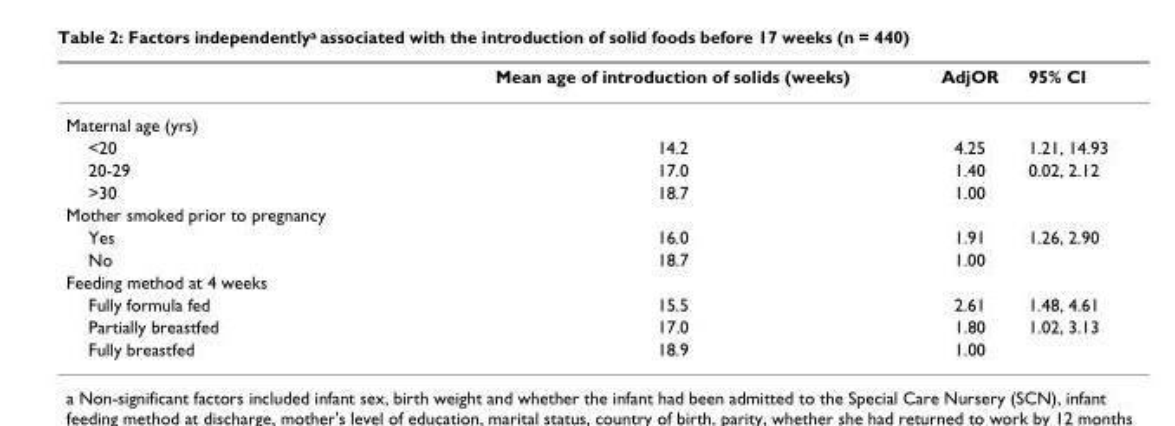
<table><thead><tr><td></td><td>Mean age of introduction of solids (weeks)</td><td>AdjOR</td><td>95% CI</td></tr></thead><tbody><tr><td colspan="4">Maternal age (yrs)</td></tr><tr><td>&lt;20</td><td>14.2</td><td>4.25</td><td>1.21, 14.93</td></tr><tr><td>20-29</td><td>17.0</td><td>1.40</td><td>0.02, 2.12</td></tr><tr><td>&gt;30</td><td>18.7</td><td>1.00</td><td></td></tr><tr><td colspan="4">Mother smoked prior to pregnancy</td></tr><tr><td>Yes</td><td>16.0</td><td>1.91</td><td>1.26, 2.90</td></tr><tr><td>No</td><td>18.7</td><td>1.00</td><td></td></tr><tr><td colspan="4">Feeding method at 4 weeks</td></tr><tr><td>Fully formula fed</td><td>15.5</td><td>2.61</td><td>1.48, 4.61</td></tr><tr><td>Partially breastfed</td><td>17.0</td><td>1.80</td><td>1.02, 3.13</td></tr><tr><td>Fully breastfed</td><td>18.9</td><td>1.00</td><td></td></tr></tbody></table>